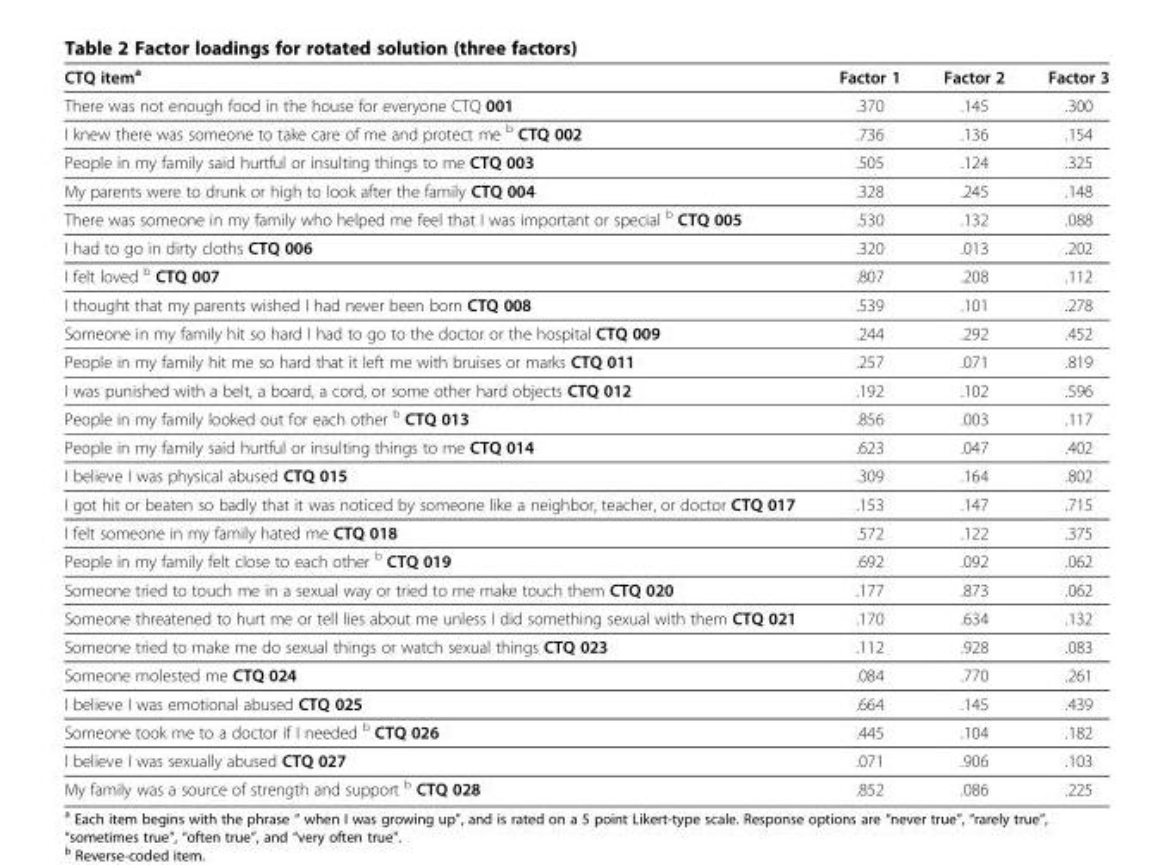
<table><thead><tr><td>CTQ item<sup>a</sup></td><td>Factor 1</td><td>Factor 2</td><td>Factor 3</td></tr></thead><tbody><tr><td>There was not enough food in the house for everyone CTQ 001</td><td>.370</td><td>.145</td><td>.300</td></tr><tr><td>I knew there was someone to take care of me and protect me <sup>b</sup> CTQ 002</td><td>.736</td><td>.136</td><td>.154</td></tr><tr><td>People in my family said hurtful or insulting things to me CTQ 003</td><td>.505</td><td>.124</td><td>.325</td></tr><tr><td>My parents were to drunk or high to look after the family CTQ 004</td><td>.328</td><td>.245</td><td>.148</td></tr><tr><td>There was someone in my family who helped me feel that I was important or special <sup>b</sup> CTQ 005</td><td>.530</td><td>.132</td><td>.088</td></tr><tr><td>I had to go in dirty cloths CTQ 006</td><td>.320</td><td>.013</td><td>.202</td></tr><tr><td>I felt loved <sup>b</sup> CTQ 007</td><td>.807</td><td>.208</td><td>.112</td></tr><tr><td>I thought that my parents wished I had never been born CTQ 008</td><td>.539</td><td>.101</td><td>.278</td></tr><tr><td>Someone in my family hit so hard I had to go to the doctor or the hospital CTQ 009</td><td>.244</td><td>.292</td><td>.452</td></tr><tr><td>People in my family hit me so hard that it left me with bruises or marks CTQ 011</td><td>.257</td><td>.071</td><td>.819</td></tr><tr><td>I was punished with a belt, a board, a cord, or some other hard objects CTQ 012</td><td>.192</td><td>.102</td><td>.596</td></tr><tr><td>People in my family looked out for each other <sup>b</sup> CTQ 013</td><td>.856</td><td>.003</td><td>.117</td></tr><tr><td>People in my family said hurtful or insulting things to me CTQ 014</td><td>.623</td><td>.047</td><td>.402</td></tr><tr><td>I believe I was physical abused CTQ 015</td><td>.309</td><td>.164</td><td>.802</td></tr><tr><td>I got hit or beaten so badly that it was noticed by someone like a neighbor, teacher, or doctor CTQ 017</td><td>.153</td><td>.147</td><td>.715</td></tr><tr><td>I felt someone in my family hated me CTQ 018</td><td>.572</td><td>.122</td><td>.375</td></tr><tr><td>People in my family felt close to each other <sup>b</sup> CTQ 019</td><td>.692</td><td>.092</td><td>.062</td></tr><tr><td>Someone tried to touch me in a sexual way or tried to me make touch them CTQ 020</td><td>.177</td><td>.873</td><td>.062</td></tr><tr><td>Someone threatened to hurt me or tell lies about me unless I did something sexual with them CTQ 021</td><td>.170</td><td>.634</td><td>.132</td></tr><tr><td>Someone tried to make me do sexual things or watch sexual things CTQ 023</td><td>.112</td><td>.928</td><td>.083</td></tr><tr><td>Someone molested me CTQ 024</td><td>.084</td><td>.770</td><td>.261</td></tr><tr><td>I believe I was emotional abused CTQ 025</td><td>.664</td><td>.145</td><td>.439</td></tr><tr><td>Someone took me to a doctor if I needed <sup>b</sup> CTQ 026</td><td>.445</td><td>.104</td><td>.182</td></tr><tr><td>I believe I was sexually abused CTQ 027</td><td>.071</td><td>.906</td><td>.103</td></tr><tr><td>My family was a source of strength and support <sup>b</sup> CTQ 028</td><td>.852</td><td>.086</td><td>.225</td></tr></tbody></table>